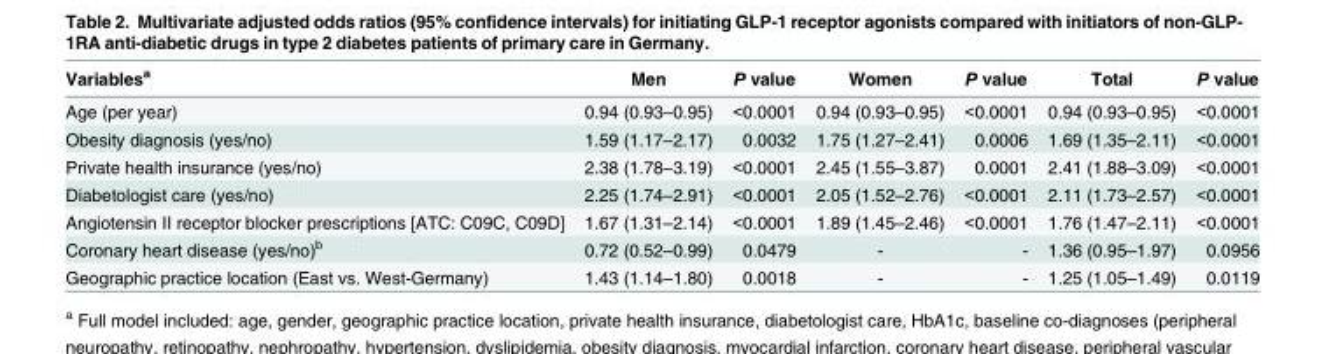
<table><thead><tr><td>Variables<sup>a</sup></td><td>Men</td><td>P value</td><td>Women</td><td>P value</td><td>Total</td><td>P value</td></tr></thead><tbody><tr><td>Age (per year)</td><td>0.94 (0.93–0.95)</td><td>&lt;0.0001</td><td>0.94 (0.93–0.95)</td><td>&lt;0.0001</td><td>0.94 (0.93–0.95)</td><td>&lt;0.0001</td></tr><tr><td>Obesity diagnosis (yes/no)</td><td>1.59 (1.17–2.17)</td><td>0.0032</td><td>1.75 (1.27–2.41)</td><td>0.0006</td><td>1.69 (1.35–2.11)</td><td>&lt;0.0001</td></tr><tr><td>Private health insurance (yes/no)</td><td>2.38 (1.78–3.19)</td><td>&lt;0.0001</td><td>2.45 (1.55–3.87)</td><td>0.0001</td><td>2.41 (1.88–3.09)</td><td>&lt;0.0001</td></tr><tr><td>Diabetologist care (yes/no)</td><td>2.25 (1.74–2.91)</td><td>&lt;0.0001</td><td>2.05 (1.52–2.76)</td><td>&lt;0.0001</td><td>2.11 (1.73–2.57)</td><td>&lt;0.0001</td></tr><tr><td>Angiotensin II receptor blocker prescriptions [ATC: C09C, C09D]</td><td>1.67 (1.31–2.14)</td><td>&lt;0.0001</td><td>1.89 (1.45–2.46)</td><td>&lt;0.0001</td><td>1.76 (1.47–2.11)</td><td>&lt;0.0001</td></tr><tr><td>Coronary heart disease (yes/no)<sup>b</sup></td><td>0.72 (0.52–0.99)</td><td>0.0479</td><td>-</td><td>-</td><td>1.36 (0.95–1.97)</td><td>0.0956</td></tr><tr><td>Geographic practice location (East vs. West-Germany)</td><td>1.43 (1.14–1.80)</td><td>0.0018</td><td>-</td><td>-</td><td>1.25 (1.05–1.49)</td><td>0.0119</td></tr></tbody></table>